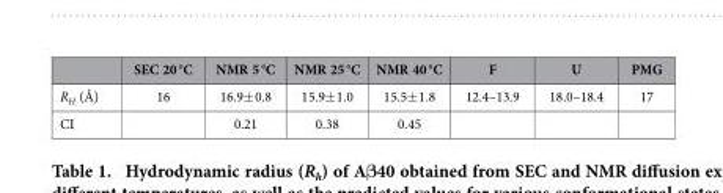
<table><thead><tr><td></td><td>SEC 20 °C</td><td>NMR 5 °C</td><td>NMR 25 °C</td><td>NMR 40 °C</td><td>F</td><td>U</td><td>PMG</td></tr></thead><tbody><tr><td>R<sub>H</sub> (Å)</td><td>16</td><td>16.9± 0.8</td><td>15.9± 1.0</td><td>15.5± 1.8</td><td>12.4–13.9</td><td>18.0–18.4</td><td>17</td></tr><tr><td>CI</td><td></td><td>0.21</td><td>0.38</td><td>0.45</td><td></td><td></td><td></td></tr></tbody></table>